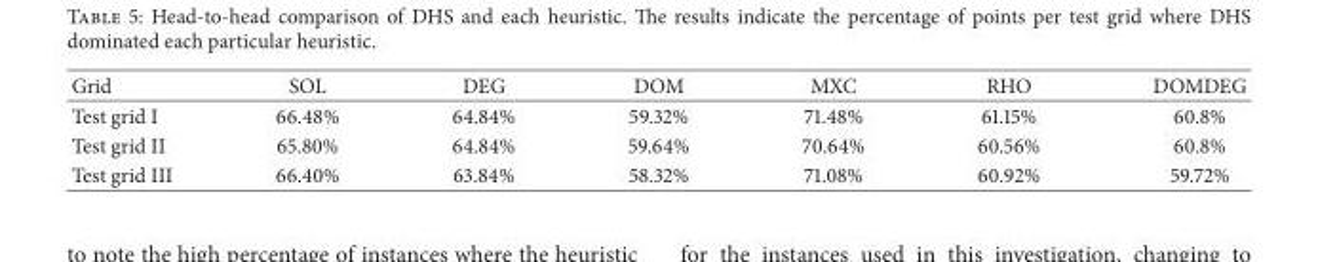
<table><thead><tr><td>Grid</td><td>SOL</td><td>DEG</td><td>DOM</td><td>MXC</td><td>RHO</td><td>DOMDEG</td></tr></thead><tbody><tr><td>Test grid I</td><td>66.48%</td><td>64.84%</td><td>59.32%</td><td>71.48%</td><td>61.15%</td><td>60.8%</td></tr><tr><td>Test grid II</td><td>65.80%</td><td>64.84%</td><td>59.64%</td><td>70.64%</td><td>60.56%</td><td>60.8%</td></tr><tr><td>Test grid III</td><td>66.40%</td><td>63.84%</td><td>58.32%</td><td>71.08%</td><td>60.92%</td><td>59.72%</td></tr></tbody></table>